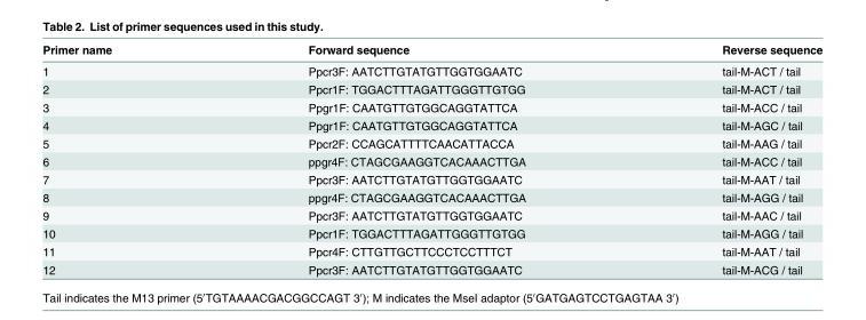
<table><thead><tr><td>Primer name</td><td>Forward sequence</td><td>Reverse sequence</td></tr></thead><tbody><tr><td>1</td><td>Ppcr3F: AATCTTGTATGTTGGTGGAATC</td><td>tail-M-ACT / tail</td></tr><tr><td>2</td><td>Ppcr1F: TGGACTTTAGATTGGGTTGTGG</td><td>tail-M-ACT / tail</td></tr><tr><td>3</td><td>Ppgr1F: CAATGTTGTGGCAGGTATTCA</td><td>tail-M-ACC / tail</td></tr><tr><td>4</td><td>Ppgr1F: CAATGTTGTGGCAGGTATTCA</td><td>tail-M-AGC / tail</td></tr><tr><td>5</td><td>Ppcr2F: CCAGCATTTTCAACATTACCA</td><td>tail-M-AAG / tail</td></tr><tr><td>6</td><td>ppgr4F: CTAGCGAAGGTCACAAACTTGA</td><td>tail-M-ACC / tail</td></tr><tr><td>7</td><td>Ppcr3F: AATCTTGTATGTTGGTGGAATC</td><td>tail-M-AAT / tail</td></tr><tr><td>8</td><td>ppgr4F: CTAGCGAAGGTCACAAACTTGA</td><td>tail-M-AGG / tail</td></tr><tr><td>9</td><td>Ppcr3F: AATCTTGTATGTTGGTGGAATC</td><td>tail-M-AAC / tail</td></tr><tr><td>10</td><td>Ppcr1F: TGGACTTTAGATTGGGTTGTGG</td><td>tail-M-AGG / tail</td></tr><tr><td>11</td><td>Ppcr4F: CTTGTTGCTTCCCTCCTTTCT</td><td>tail-M-AAT / tail</td></tr><tr><td>12</td><td>Ppcr3F: AATCTTGTATGTTGGTGGAATC</td><td>tail-M-ACG / tail</td></tr></tbody></table>